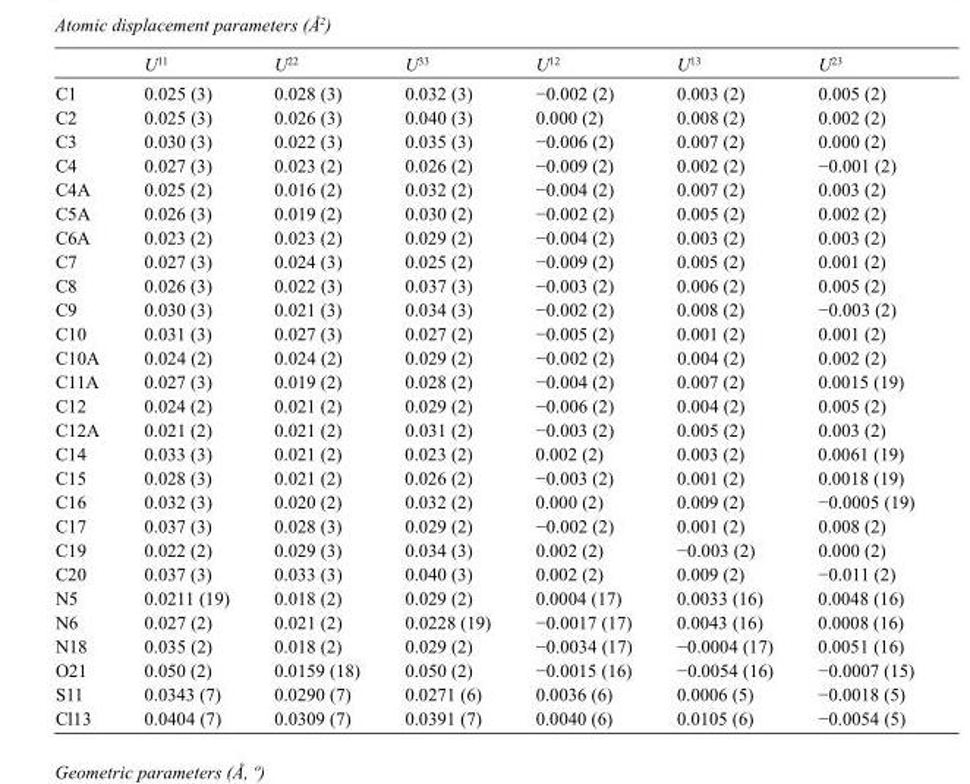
<table><thead><tr><td></td><td>U<sup>11</sup></td><td>U<sup>22</sup></td><td>U<sup>33</sup></td><td>U<sup>12</sup></td><td>U<sup>13</sup></td><td>U<sup>23</sup></td></tr></thead><tbody><tr><td>C1</td><td>0.025 (3)</td><td>0.028 (3)</td><td>0.032 (3)</td><td>−0.002 (2)</td><td>0.003 (2)</td><td>0.005 (2)</td></tr><tr><td>C2</td><td>0.025 (3)</td><td>0.026 (3)</td><td>0.040 (3)</td><td>0.000 (2)</td><td>0.008 (2)</td><td>0.002 (2)</td></tr><tr><td>C3</td><td>0.030 (3)</td><td>0.022 (3)</td><td>0.035 (3)</td><td>−0.006 (2)</td><td>0.007 (2)</td><td>0.000 (2)</td></tr><tr><td>C4</td><td>0.027 (3)</td><td>0.023 (2)</td><td>0.026 (2)</td><td>−0.009 (2)</td><td>0.002 (2)</td><td>−0.001 (2)</td></tr><tr><td>C4A</td><td>0.025 (2)</td><td>0.016 (2)</td><td>0.032 (2)</td><td>−0.004 (2)</td><td>0.007 (2)</td><td>0.003 (2)</td></tr><tr><td>C5A</td><td>0.026 (3)</td><td>0.019 (2)</td><td>0.030 (2)</td><td>−0.002 (2)</td><td>0.005 (2)</td><td>0.002 (2)</td></tr><tr><td>C6A</td><td>0.023 (2)</td><td>0.023 (2)</td><td>0.029 (2)</td><td>−0.004 (2)</td><td>0.003 (2)</td><td>0.003 (2)</td></tr><tr><td>C7</td><td>0.027 (3)</td><td>0.024 (3)</td><td>0.025 (2)</td><td>−0.009 (2)</td><td>0.005 (2)</td><td>0.001 (2)</td></tr><tr><td>C8</td><td>0.026 (3)</td><td>0.022 (3)</td><td>0.037 (3)</td><td>−0.003 (2)</td><td>0.006 (2)</td><td>0.005 (2)</td></tr><tr><td>C9</td><td>0.030 (3)</td><td>0.021 (3)</td><td>0.034 (3)</td><td>−0.002 (2)</td><td>0.008 (2)</td><td>−0.003 (2)</td></tr><tr><td>C10</td><td>0.031 (3)</td><td>0.027 (3)</td><td>0.027 (2)</td><td>−0.005 (2)</td><td>0.001 (2)</td><td>0.001 (2)</td></tr><tr><td>C10A</td><td>0.024 (2)</td><td>0.024 (2)</td><td>0.029 (2)</td><td>−0.002 (2)</td><td>0.004 (2)</td><td>0.002 (2)</td></tr><tr><td>C11A</td><td>0.027 (3)</td><td>0.019 (2)</td><td>0.028 (2)</td><td>−0.004 (2)</td><td>0.007 (2)</td><td>0.0015 (19)</td></tr><tr><td>C12</td><td>0.024 (2)</td><td>0.021 (2)</td><td>0.029 (2)</td><td>−0.006 (2)</td><td>0.004 (2)</td><td>0.005 (2)</td></tr><tr><td>C12A</td><td>0.021 (2)</td><td>0.021 (2)</td><td>0.031 (2)</td><td>−0.003 (2)</td><td>0.005 (2)</td><td>0.003 (2)</td></tr><tr><td>C14</td><td>0.033 (3)</td><td>0.021 (2)</td><td>0.023 (2)</td><td>0.002 (2)</td><td>0.003 (2)</td><td>0.0061 (19)</td></tr><tr><td>C15</td><td>0.028 (3)</td><td>0.021 (2)</td><td>0.026 (2)</td><td>−0.003 (2)</td><td>0.001 (2)</td><td>0.0018 (19)</td></tr><tr><td>C16</td><td>0.032 (3)</td><td>0.020 (2)</td><td>0.032 (2)</td><td>0.000 (2)</td><td>0.009 (2)</td><td>−0.0005 (19)</td></tr><tr><td>C17</td><td>0.037 (3)</td><td>0.028 (3)</td><td>0.029 (2)</td><td>−0.002 (2)</td><td>0.001 (2)</td><td>0.008 (2)</td></tr><tr><td>C19</td><td>0.022 (2)</td><td>0.029 (3)</td><td>0.034 (3)</td><td>0.002 (2)</td><td>−0.003 (2)</td><td>0.000 (2)</td></tr><tr><td>C20</td><td>0.037 (3)</td><td>0.033 (3)</td><td>0.040 (3)</td><td>0.002 (2)</td><td>0.009 (2)</td><td>−0.011 (2)</td></tr><tr><td>N5</td><td>0.0211 (19)</td><td>0.018 (2)</td><td>0.029 (2)</td><td>0.0004 (17)</td><td>0.0033 (16)</td><td>0.0048 (16)</td></tr><tr><td>N6</td><td>0.027 (2)</td><td>0.021 (2)</td><td>0.0228 (19)</td><td>−0.0017 (17)</td><td>0.0043 (16)</td><td>0.0008 (16)</td></tr><tr><td>N18</td><td>0.035 (2)</td><td>0.018 (2)</td><td>0.029 (2)</td><td>−0.0034 (17)</td><td>−0.0004 (17)</td><td>0.0051 (16)</td></tr><tr><td>O21</td><td>0.050 (2)</td><td>0.0159 (18)</td><td>0.050 (2)</td><td>−0.0015 (16)</td><td>−0.0054 (16)</td><td>−0.0007 (15)</td></tr><tr><td>S11</td><td>0.0343 (7)</td><td>0.0290 (7)</td><td>0.0271 (6)</td><td>0.0036 (6)</td><td>0.0006 (5)</td><td>−0.0018 (5)</td></tr><tr><td>Cl13</td><td>0.0404 (7)</td><td>0.0309 (7)</td><td>0.0391 (7)</td><td>0.0040 (6)</td><td>0.0105 (6)</td><td>−0.0054 (5)</td></tr></tbody></table>